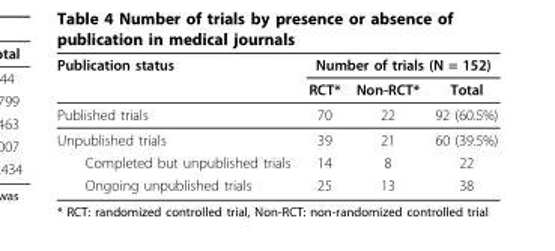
<table><thead><tr><td rowspan="2">Publication status</td><td colspan="3">Number of trials (N = 152)</td></tr><tr><td>RCT*</td><td>Non-RCT*</td><td>Total</td></tr></thead><tbody><tr><td>Published trials</td><td>70</td><td>22</td><td>92 (60.5%)</td></tr><tr><td>Unpublished trials</td><td>39</td><td>21</td><td>60 (39.5%)</td></tr><tr><td>Completed but unpublished trials</td><td>14</td><td>8</td><td>22</td></tr><tr><td>Ongoing unpublished trials</td><td>25</td><td>13</td><td>38</td></tr></tbody></table>